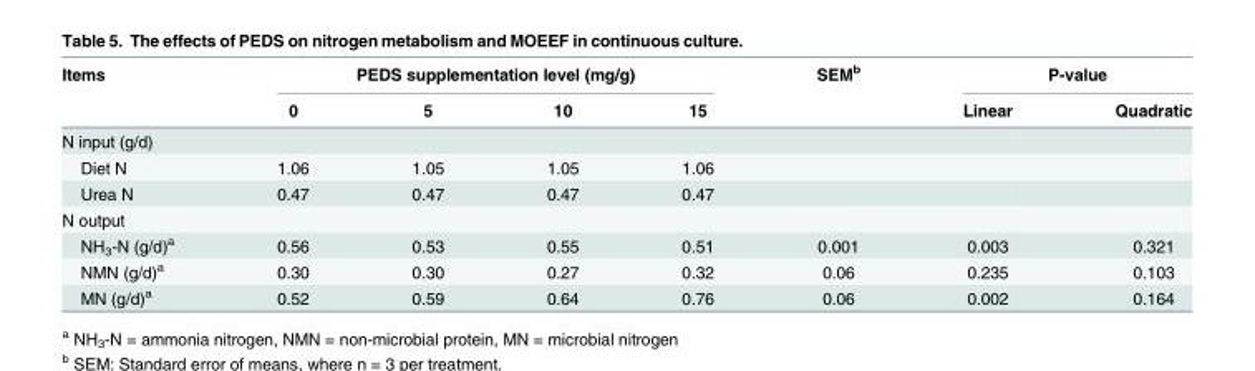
<table><thead><tr><td rowspan="2">Items</td><td colspan="4">PEDS supplementation level (mg/g)</td><td rowspan="2">SEM<sup>b</sup></td><td colspan="2">P-value</td></tr><tr><td>0</td><td>5</td><td>10</td><td>15</td><td>Linear</td><td>Quadratic</td></tr></thead><tbody><tr><td colspan="8">N input (g/d)</td></tr><tr><td>Diet N</td><td>1.06</td><td>1.05</td><td>1.05</td><td>1.06</td><td></td><td></td><td></td></tr><tr><td>Urea N</td><td>0.47</td><td>0.47</td><td>0.47</td><td>0.47</td><td></td><td></td><td></td></tr><tr><td colspan="8">N output</td></tr><tr><td>NH<sub>3</sub>-N (g/d)<sup>a</sup></td><td>0.56</td><td>0.53</td><td>0.55</td><td>0.51</td><td>0.001</td><td>0.003</td><td>0.321</td></tr><tr><td>NMN (g/d)<sup>a</sup></td><td>0.30</td><td>0.30</td><td>0.27</td><td>0.32</td><td>0.06</td><td>0.235</td><td>0.103</td></tr><tr><td>MN (g/d)<sup>a</sup></td><td>0.52</td><td>0.59</td><td>0.64</td><td>0.76</td><td>0.06</td><td>0.002</td><td>0.164</td></tr></tbody></table>